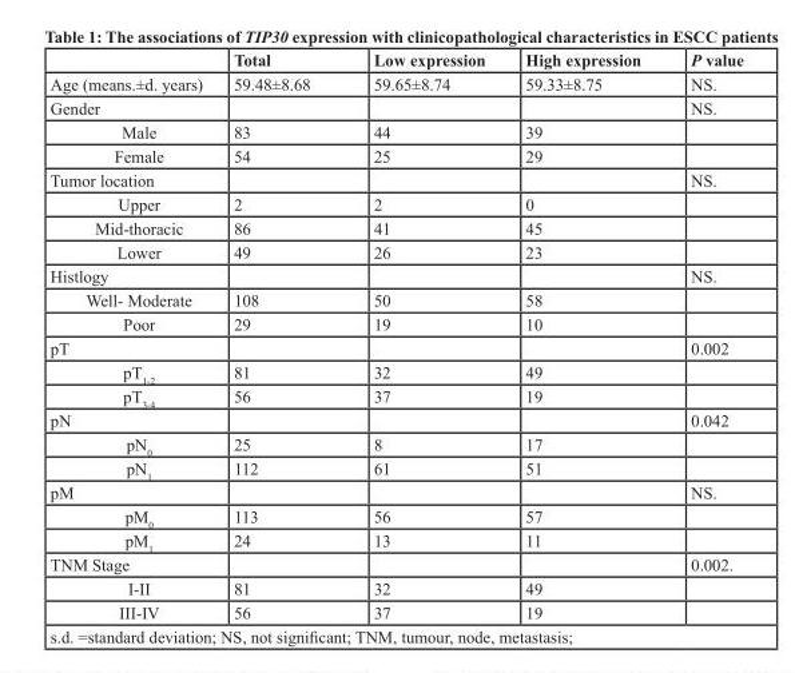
<table><thead><tr><td></td><td>Total</td><td>Low expression</td><td>High expression</td><td>P value</td></tr></thead><tbody><tr><td>Age (means.±d. years)</td><td>59.48±8.68</td><td>59.65±8.74</td><td>59.33±8.75</td><td>NS.</td></tr><tr><td>Gender</td><td></td><td></td><td></td><td>NS.</td></tr><tr><td>Male</td><td>83</td><td>44</td><td>39</td><td></td></tr><tr><td>Female</td><td>54</td><td>25</td><td>29</td><td></td></tr><tr><td>Tumor location</td><td></td><td></td><td></td><td>NS.</td></tr><tr><td>Upper</td><td>2</td><td>2</td><td>0</td><td></td></tr><tr><td>Mid-thoracic</td><td>86</td><td>41</td><td>45</td><td></td></tr><tr><td>Lower</td><td>49</td><td>26</td><td>23</td><td></td></tr><tr><td>Histlogy</td><td></td><td></td><td></td><td>NS.</td></tr><tr><td>Well- Moderate</td><td>108</td><td>50</td><td>58</td><td></td></tr><tr><td>Poor</td><td>29</td><td>19</td><td>10</td><td></td></tr><tr><td>pT</td><td></td><td></td><td></td><td>0.002</td></tr><tr><td>pT<sub>1-2</sub></td><td>81</td><td>32</td><td>49</td><td></td></tr><tr><td>pT<sub>3-4</sub></td><td>56</td><td>37</td><td>19</td><td></td></tr><tr><td>pN</td><td></td><td></td><td></td><td>0.042</td></tr><tr><td>pN<sub>0</sub></td><td>25</td><td>8</td><td>17</td><td></td></tr><tr><td>pN<sub>1</sub></td><td>112</td><td>61</td><td>51</td><td></td></tr><tr><td>pM</td><td></td><td></td><td></td><td>NS.</td></tr><tr><td>pM<sub>0</sub></td><td>113</td><td>56</td><td>57</td><td></td></tr><tr><td>pM<sub>1</sub></td><td>24</td><td>13</td><td>11</td><td></td></tr><tr><td>TNM Stage</td><td></td><td></td><td></td><td>0.002.</td></tr><tr><td>I-II</td><td>81</td><td>32</td><td>49</td><td></td></tr><tr><td>III-IV</td><td>56</td><td>37</td><td>19</td><td></td></tr></tbody></table>